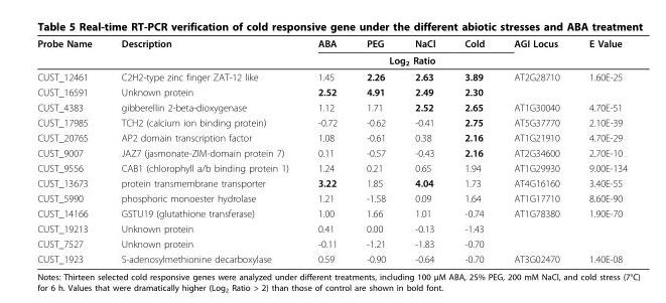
<table><thead><tr><td rowspan="2">Probe Name</td><td rowspan="2">Description</td><td>ABA</td><td>PEG</td><td>NaCl</td><td>Cold</td><td rowspan="2">AGI Locus</td><td rowspan="2">E Value</td></tr><tr><td colspan="4">Log<sub>2</sub> Ratio</td></tr></thead><tbody><tr><td>CUST_12461</td><td>C2H2-type zinc finger ZAT-12 like</td><td>1.45</td><td>2.26</td><td>2.63</td><td>3.89</td><td>AT2G28710</td><td>1.60E-25</td></tr><tr><td>CUST_16591</td><td>Unknown protein</td><td>2.52</td><td>4.91</td><td>2.49</td><td>2.30</td><td></td><td></td></tr><tr><td>CUST_4383</td><td>gibberellin 2-beta-dioxygenase</td><td>1.12</td><td>1.71</td><td>2.52</td><td>2.65</td><td>AT1G30040</td><td>4.70E-51</td></tr><tr><td>CUST_17985</td><td>TCH2 (calcium ion binding protein)</td><td>-0.72</td><td>-0.62</td><td>-0.41</td><td>2.75</td><td>AT5G37770</td><td>2.10E-39</td></tr><tr><td>CUST_20765</td><td>AP2 domain transcription factor</td><td>1.08</td><td>-0.61</td><td>0.38</td><td>2.16</td><td>AT1G21910</td><td>4.70E-29</td></tr><tr><td>CUST_9007</td><td>JAZ7 (jasmonate-ZIM-domain protein 7)</td><td>0.11</td><td>-0.57</td><td>-0.43</td><td>2.16</td><td>AT2G34600</td><td>2.70E-10</td></tr><tr><td>CUST_9556</td><td>CAB1 (chlorophyll a/b binding protein 1)</td><td>1.24</td><td>0.21</td><td>0.65</td><td>1.94</td><td>AT1G29930</td><td>9.00E-134</td></tr><tr><td>CUST_13673</td><td>protein transmembrane transporter</td><td>3.22</td><td>1.85</td><td>4.04</td><td>1.73</td><td>AT4G16160</td><td>3.40E-55</td></tr><tr><td>CUST_5990</td><td>phosphoric monoester hydrolase</td><td>1.21</td><td>-1.58</td><td>0.09</td><td>1.64</td><td>AT1G17710</td><td>8.60E-90</td></tr><tr><td>CUST_14166</td><td>GSTU19 (glutathione transferase)</td><td>1.00</td><td>1.66</td><td>1.01</td><td>-0.74</td><td>AT1G78380</td><td>1.90E-70</td></tr><tr><td>CUST_19213</td><td>Unknown protein</td><td>0.41</td><td>0.00</td><td>-0.13</td><td>-1.43</td><td></td><td></td></tr><tr><td>CUST_7527</td><td>Unknown protein</td><td>-0.11</td><td>-1.21</td><td>-1.83</td><td>-0.70</td><td></td><td></td></tr><tr><td>CUST_1923</td><td>S-adenosylmethionine decarboxylase</td><td>0.59</td><td>-0.90</td><td>-0.64</td><td>-0.70</td><td>AT3G02470</td><td>1.40E-08</td></tr></tbody></table>